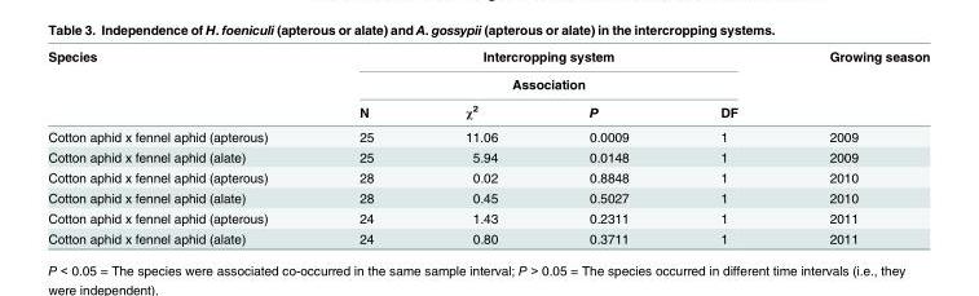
<table><thead><tr><td rowspan="3">Species</td><td rowspan="2" colspan="4">Intercropping system Association</td><td rowspan="3">Growing season</td></tr><tr></tr><tr><td>N</td><td>χ<sup>2</sup></td><td>P</td><td>DF</td></tr></thead><tbody><tr><td>Cotton aphid x fennel aphid (apterous)</td><td>25</td><td>11.06</td><td>0.0009</td><td>1</td><td>2009</td></tr><tr><td>Cotton aphid x fennel aphid (alate)</td><td>25</td><td>5.94</td><td>0.0148</td><td>1</td><td>2009</td></tr><tr><td>Cotton aphid x fennel aphid (apterous)</td><td>28</td><td>0.02</td><td>0.8848</td><td>1</td><td>2010</td></tr><tr><td>Cotton aphid x fennel aphid (alate)</td><td>28</td><td>0.45</td><td>0.5027</td><td>1</td><td>2010</td></tr><tr><td>Cotton aphid x fennel aphid (apterous)</td><td>24</td><td>1.43</td><td>0.2311</td><td>1</td><td>2011</td></tr><tr><td>Cotton aphid x fennel aphid (alate)</td><td>24</td><td>0.80</td><td>0.3711</td><td>1</td><td>2011</td></tr></tbody></table>